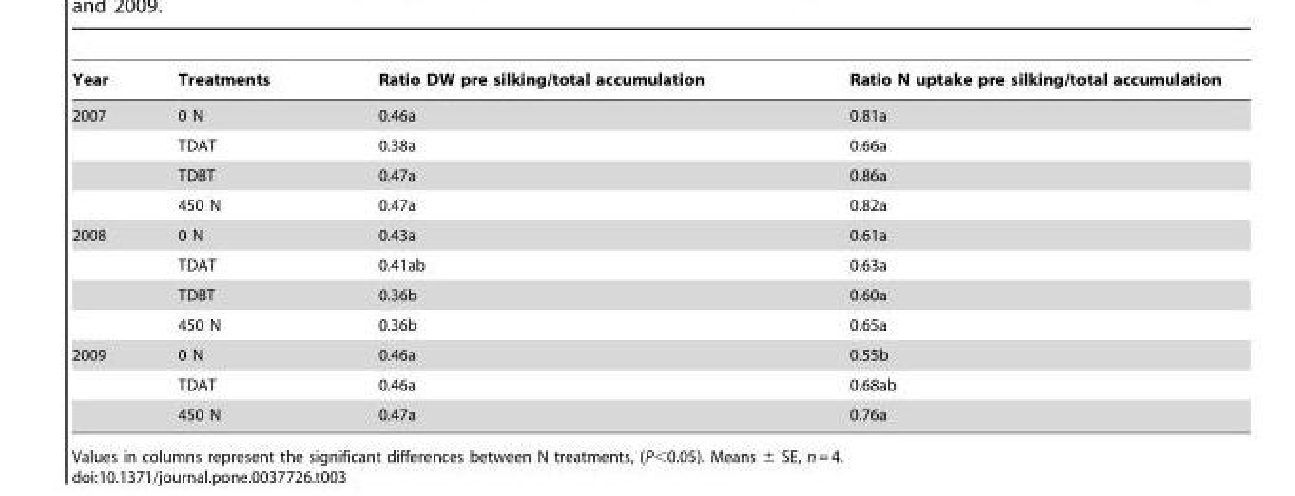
<table><thead><tr><td>Year</td><td>Treatments</td><td>Ratio DW pre silking/total accumulation</td><td>Ratio N uptake pre silking/total accumulation</td></tr></thead><tbody><tr><td rowspan="4">2007</td><td>0 N</td><td>0.46a</td><td>0.81a</td></tr><tr><td>TDAT</td><td>0.38a</td><td>0.66a</td></tr><tr><td>TDBT</td><td>0.47a</td><td>0.86a</td></tr><tr><td>450 N</td><td>0.47a</td><td>0.82a</td></tr><tr><td rowspan="4">2008</td><td>0 N</td><td>0.43a</td><td>0.61a</td></tr><tr><td>TDAT</td><td>0.41ab</td><td>0.63a</td></tr><tr><td>TDBT</td><td>0.36b</td><td>0.60a</td></tr><tr><td>450 N</td><td>0.36b</td><td>0.65a</td></tr><tr><td rowspan="3">2009</td><td>0 N</td><td>0.46a</td><td>0.55b</td></tr><tr><td>TDAT</td><td>0.46a</td><td>0.68ab</td></tr><tr><td>450 N</td><td>0.47a</td><td>0.76a</td></tr></tbody></table>